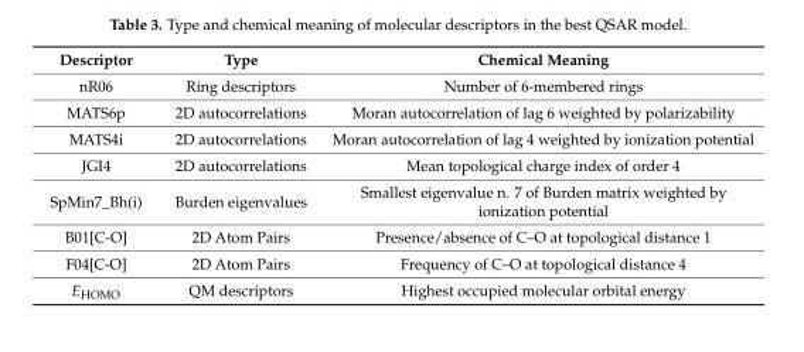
<table><thead><tr><td>Descriptor</td><td>Type</td><td>Chemical Meaning</td></tr></thead><tbody><tr><td>nR06</td><td>Ring descriptors</td><td>Number of 6-membered rings</td></tr><tr><td>MATS6p</td><td>2D autocorrelations</td><td>Moran autocorrelation of lag 6 weighted by polarizability</td></tr><tr><td>MATS4i</td><td>2D autocorrelations</td><td>Moran autocorrelation of lag 4 weighted by ionization potential</td></tr><tr><td>JGI4</td><td>2D autocorrelations</td><td>Mean topological charge index of order 4</td></tr><tr><td>SpMin7_Bh(i)</td><td>Burden eigenvalues</td><td>Smallest eigenvalue n. 7 of Burden matrix weighted by ionization potential</td></tr><tr><td>B01[C-O]</td><td>2D Atom Pairs</td><td>Presence/absence of C–O at topological distance 1</td></tr><tr><td>F04[C-O]</td><td>2D Atom Pairs</td><td>Frequency of C–O at topological distance 4</td></tr><tr><td>E<sub>HOMO</sub></td><td>QM descriptors</td><td>Highest occupied molecular orbital energy</td></tr></tbody></table>